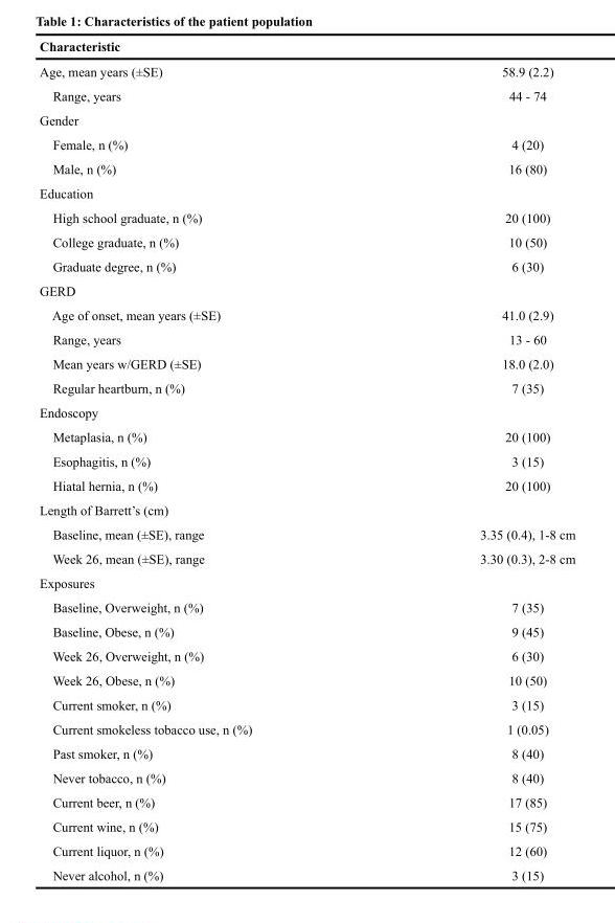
<table><thead><tr><td>Characteristic</td><td></td></tr></thead><tbody><tr><td>Age, mean years (±SE)</td><td>58.9 (2.2)</td></tr><tr><td>Range, years</td><td>44 - 74</td></tr><tr><td colspan="2">Gender</td></tr><tr><td>Female, n (%)</td><td>4 (20)</td></tr><tr><td>Male, n (%)</td><td>16 (80)</td></tr><tr><td colspan="2">Education</td></tr><tr><td>High school graduate, n (%)</td><td>20 (100)</td></tr><tr><td>College graduate, n (%)</td><td>10 (50)</td></tr><tr><td>Graduate degree, n (%)</td><td>6 (30)</td></tr><tr><td colspan="2">GERD</td></tr><tr><td>Age of onset, mean years (±SE)</td><td>41.0 (2.9)</td></tr><tr><td>Range, years</td><td>13 - 60</td></tr><tr><td>Mean years w/GERD (±SE)</td><td>18.0 (2.0)</td></tr><tr><td>Regular heartburn, n (%)</td><td>7 (35)</td></tr><tr><td colspan="2">Endoscopy</td></tr><tr><td>Metaplasia, n (%)</td><td>20 (100)</td></tr><tr><td>Esophagitis, n (%)</td><td>3 (15)</td></tr><tr><td>Hiatal hernia, n (%)</td><td>20 (100)</td></tr><tr><td colspan="2">Length of Barrett’s (cm)</td></tr><tr><td>Baseline, mean (±SE), range</td><td>3.35 (0.4), 1-8 cm</td></tr><tr><td>Week 26, mean (±SE), range</td><td>3.30 (0.3), 2-8 cm</td></tr><tr><td colspan="2">Exposures</td></tr><tr><td>Baseline, Overweight, n (%)</td><td>7 (35)</td></tr><tr><td>Baseline, Obese, n (%)</td><td>9 (45)</td></tr><tr><td>Week 26, Overweight, n (%)</td><td>6 (30)</td></tr><tr><td>Week 26, Obese, n (%)</td><td>10 (50)</td></tr><tr><td>Current smoker, n (%)</td><td>3 (15)</td></tr><tr><td>Current smokeless tobacco use, n (%)</td><td>1 (0.05)</td></tr><tr><td>Past smoker, n (%)</td><td>8 (40)</td></tr><tr><td>Never tobacco, n (%)</td><td>8 (40)</td></tr><tr><td>Current beer, n (%)</td><td>17 (85)</td></tr><tr><td>Current wine, n (%)</td><td>15 (75)</td></tr><tr><td>Current liquor, n (%)</td><td>12 (60)</td></tr><tr><td>Never alcohol, n (%)</td><td>3 (15)</td></tr></tbody></table>